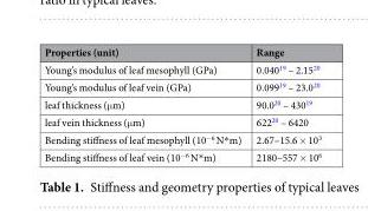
<table><thead><tr><td>Properties (unit)</td><td>Range</td></tr></thead><tbody><tr><td>Young’s modulus of leaf mesophyll (GPa)</td><td>0.040<sup>19</sup> – 2.15<sup>20</sup></td></tr><tr><td>Young’s modulus of leaf vein (GPa)</td><td>0.099<sup>19</sup> – 23.0<sup>20</sup></td></tr><tr><td>leaf thickness (μm)</td><td>90.0<sup>20</sup> – 430<sup>19</sup></td></tr><tr><td>leaf vein thickness (μm)</td><td>622<sup>20</sup> – 6420</td></tr><tr><td>Bending stiffness of leaf mesophyll (10<sup>−6</sup> N*m)</td><td>2.67–15.6 × 10<sup>3</sup></td></tr><tr><td>Bending stiffness of leaf vein (10<sup>−6</sup> N*m)</td><td>2180–557 × 10<sup>6</sup></td></tr></tbody></table>